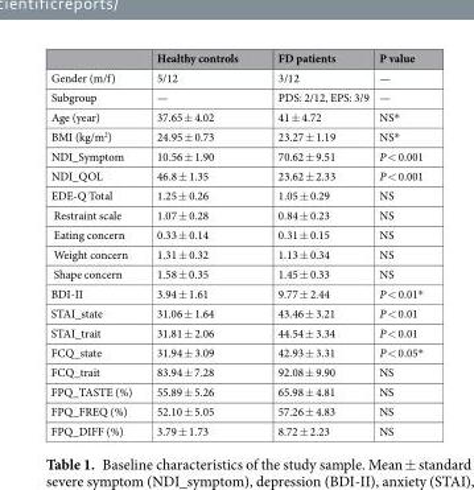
<table><thead><tr><td></td><td>Healthy controls</td><td>FD patients</td><td>P value</td></tr></thead><tbody><tr><td>Gender (m/f)</td><td>5/12</td><td>3/12</td><td>—</td></tr><tr><td>Subgroup</td><td>—</td><td>PDS: 2/12, EPS: 3/9</td><td>—</td></tr><tr><td>Age (year)</td><td>37.65 ± 4.02</td><td>41 ± 4.72</td><td>NS*</td></tr><tr><td>BMI (kg/m<sup>2</sup>)</td><td>24.95 ± 0.73</td><td>23.27 ± 1.19</td><td>NS*</td></tr><tr><td>NDI_Symptom</td><td>10.56 ± 1.90</td><td>70.62 ± 9.51</td><td>P &lt; 0.001</td></tr><tr><td>NDI_QOL</td><td>46.8 ± 1.35</td><td>23.62 ± 2.33</td><td>P &lt; 0.001</td></tr><tr><td>EDE-Q Total</td><td>1.25 ± 0.26</td><td>1.05 ± 0.29</td><td>NS</td></tr><tr><td>Restraint scale</td><td>1.07 ± 0.28</td><td>0.84 ± 0.23</td><td>NS</td></tr><tr><td>Eating concern</td><td>0.33 ± 0.14</td><td>0.31 ± 0.15</td><td>NS</td></tr><tr><td>Weight concern</td><td>1.31 ± 0.32</td><td>1.13 ± 0.34</td><td>NS</td></tr><tr><td>Shape concern</td><td>1.58 ± 0.35</td><td>1.45 ± 0.33</td><td>NS</td></tr><tr><td>BDI-II</td><td>3.94 ± 1.61</td><td>9.77 ± 2.44</td><td>P &lt; 0.01*</td></tr><tr><td>STAI_state</td><td>31.06 ± 1.64</td><td>43.46 ± 3.21</td><td>P &lt; 0.01</td></tr><tr><td>STAI_trait</td><td>31.81 ± 2.06</td><td>44.54 ± 3.34</td><td>P &lt; 0.01</td></tr><tr><td>FCQ_state</td><td>31.94 ± 3.09</td><td>42.93 ± 3.31</td><td>P &lt; 0.05*</td></tr><tr><td>FCQ_trait</td><td>83.94 ± 7.28</td><td>92.08 ± 9.90</td><td>NS</td></tr><tr><td>FPQ_TASTE (%)</td><td>55.89 ± 5.26</td><td>65.98 ± 4.81</td><td>NS</td></tr><tr><td>FPQ_FREQ (%)</td><td>52.10 ± 5.05</td><td>57.26 ± 4.83</td><td>NS</td></tr><tr><td>FPQ_DIFF (%)</td><td>3.79 ± 1.73</td><td>8.72 ± 2.23</td><td>NS</td></tr></tbody></table>